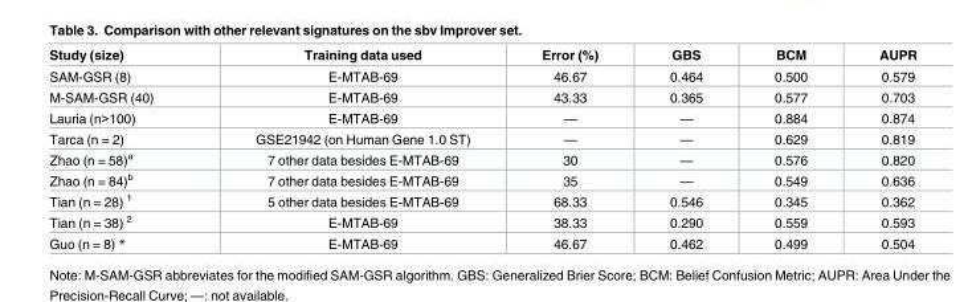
<table><thead><tr><td>Study (size)</td><td>Training data used</td><td>Error (%)</td><td>GBS</td><td>BCM</td><td>AUPR</td></tr></thead><tbody><tr><td>SAM-GSR (8)</td><td>E-MTAB-69</td><td>46.67</td><td>0.464</td><td>0.500</td><td>0.579</td></tr><tr><td>M-SAM-GSR (40)</td><td>E-MTAB-69</td><td>43.33</td><td>0.365</td><td>0.577</td><td>0.703</td></tr><tr><td>Lauria (n&gt;100)</td><td>E-MTAB-69</td><td>—</td><td>—</td><td>0.884</td><td>0.874</td></tr><tr><td>Tarca (n = 2)</td><td>GSE21942 (on Human Gene 1.0 ST)</td><td>—</td><td>—</td><td>0.629</td><td>0.819</td></tr><tr><td>Zhao (n = 58)<sup>a</sup></td><td>7 other data besides E-MTAB-69</td><td>30</td><td>—</td><td>0.576</td><td>0.820</td></tr><tr><td>Zhao (n = 84)<sup>b</sup></td><td>7 other data besides E-MTAB-69</td><td>35</td><td>—</td><td>0.549</td><td>0.636</td></tr><tr><td>Tian (n = 28) <sup>1</sup></td><td>5 other data besides E-MTAB-69</td><td>68.33</td><td>0.546</td><td>0.345</td><td>0.362</td></tr><tr><td>Tian (n = 38) <sup>2</sup></td><td>E-MTAB-69</td><td>38.33</td><td>0.290</td><td>0.559</td><td>0.593</td></tr><tr><td>Guo (n = 8) *</td><td>E-MTAB-69</td><td>46.67</td><td>0.462</td><td>0.499</td><td>0.504</td></tr></tbody></table>